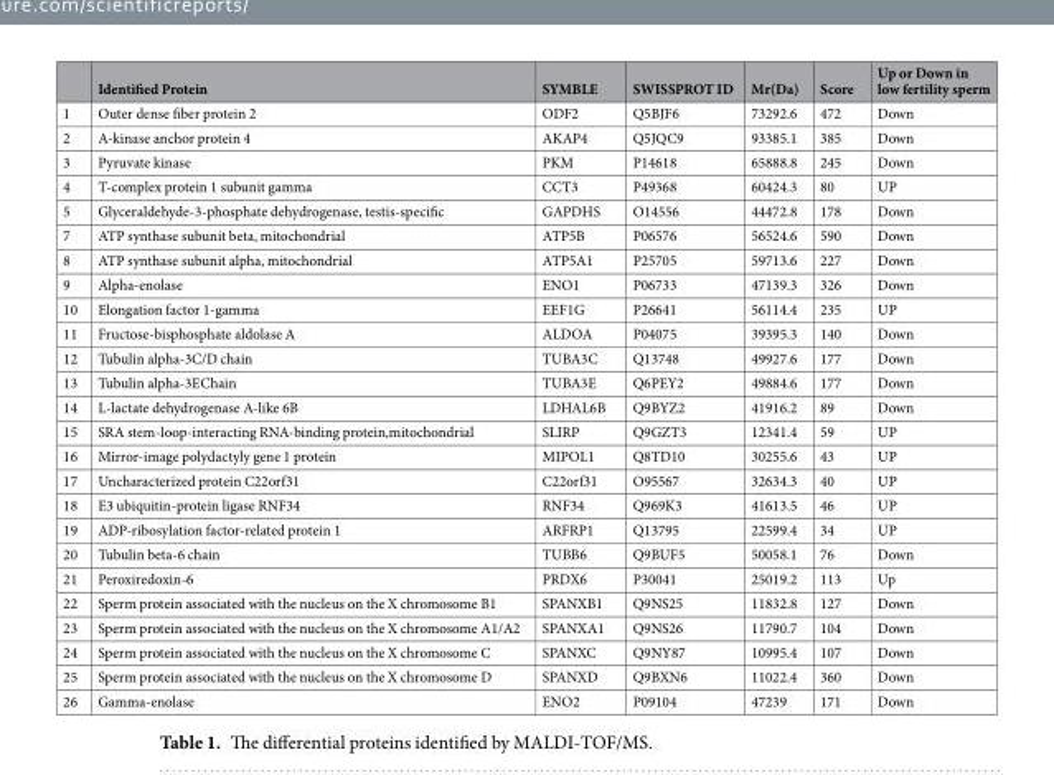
<table><thead><tr><td></td><td>Identified Protein</td><td>SYMBLE</td><td>SWISSPROT ID</td><td>Mr(Da)</td><td>Score</td><td>Up or Down in low fertility sperm</td></tr></thead><tbody><tr><td>1</td><td>Outer dense fiber protein 2</td><td>ODF2</td><td>Q5BJF6</td><td>73292.6</td><td>472</td><td>Down</td></tr><tr><td>2</td><td>A-kinase anchor protein 4</td><td>AKAP4</td><td>Q5JQC9</td><td>93385.1</td><td>385</td><td>Down</td></tr><tr><td>3</td><td>Pyruvate kinase</td><td>PKM</td><td>P14618</td><td>65888.8</td><td>245</td><td>Down</td></tr><tr><td>4</td><td>T-complex protein 1 subunit gamma</td><td>CCT3</td><td>P49368</td><td>60424.3</td><td>80</td><td>UP</td></tr><tr><td>5</td><td>Glyceraldehyde-3-phosphate dehydrogenase, testis-specific</td><td>GAPDHS</td><td>O14556</td><td>44472.8</td><td>178</td><td>Down</td></tr><tr><td>7</td><td>ATP synthase subunit beta, mitochondrial</td><td>ATP5B</td><td>P06576</td><td>56524.6</td><td>590</td><td>Down</td></tr><tr><td>8</td><td>ATP synthase subunit alpha, mitochondrial</td><td>ATP5A1</td><td>P25705</td><td>59713.6</td><td>227</td><td>Down</td></tr><tr><td>9</td><td>Alpha-enolase</td><td>ENO1</td><td>P06733</td><td>47139.3</td><td>326</td><td>Down</td></tr><tr><td>10</td><td>Elongation factor 1-gamma</td><td>EEF1G</td><td>P26641</td><td>56114.4</td><td>235</td><td>UP</td></tr><tr><td>11</td><td>Fructose-bisphosphate aldolase A</td><td>ALDOA</td><td>P04075</td><td>39395.3</td><td>140</td><td>Down</td></tr><tr><td>12</td><td>Tubulin alpha-3C/D chain</td><td>TUBA3C</td><td>Q13748</td><td>49927.6</td><td>177</td><td>Down</td></tr><tr><td>13</td><td>Tubulin alpha-3EChain</td><td>TUBA3E</td><td>Q6PEY2</td><td>49884.6</td><td>177</td><td>Down</td></tr><tr><td>14</td><td>L-lactate dehydrogenase A-like 6B</td><td>LDHAL6B</td><td>Q9BYZ2</td><td>41916.2</td><td>89</td><td>Down</td></tr><tr><td>15</td><td>SRA stem-loop-interacting RNA-binding protein,mitochondrial</td><td>SLIRP</td><td>Q9GZT3</td><td>12341.4</td><td>59</td><td>UP</td></tr><tr><td>16</td><td>Mirror-image polydactyly gene 1 protein</td><td>MIPOL1</td><td>Q8TD10</td><td>30255.6</td><td>43</td><td>UP</td></tr><tr><td>17</td><td>Uncharacterized protein C22orf31</td><td>C22orf31</td><td>O95567</td><td>32634.3</td><td>40</td><td>UP</td></tr><tr><td>18</td><td>E3 ubiquitin-protein ligase RNF34</td><td>RNF34</td><td>Q969K3</td><td>41613.5</td><td>46</td><td>UP</td></tr><tr><td>19</td><td>ADP-ribosylation factor-related protein 1</td><td>ARFRP1</td><td>Q13795</td><td>22599.4</td><td>34</td><td>UP</td></tr><tr><td>20</td><td>Tubulin beta-6 chain</td><td>TUBB6</td><td>Q9BUF5</td><td>50058.1</td><td>76</td><td>Down</td></tr><tr><td>21</td><td>Peroxiredoxin-6</td><td>PRDX6</td><td>P30041</td><td>25019.2</td><td>113</td><td>Up</td></tr><tr><td>22</td><td>Sperm protein associated with the nucleus on the X chromosome B1</td><td>SPANXB1</td><td>Q9NS25</td><td>11832.8</td><td>127</td><td>Down</td></tr><tr><td>23</td><td>Sperm protein associated with the nucleus on the X chromosome A1/A2</td><td>SPANXA1</td><td>Q9NS26</td><td>11790.7</td><td>104</td><td>Down</td></tr><tr><td>24</td><td>Sperm protein associated with the nucleus on the X chromosome C</td><td>SPANXC</td><td>Q9NY87</td><td>10995.4</td><td>107</td><td>Down</td></tr><tr><td>25</td><td>Sperm protein associated with the nucleus on the X chromosome D</td><td>SPANXD</td><td>Q9BXN6</td><td>11022.4</td><td>360</td><td>Down</td></tr><tr><td>26</td><td>Gamma-enolase</td><td>ENO2</td><td>P09104</td><td>47239</td><td>171</td><td>Down</td></tr></tbody></table>